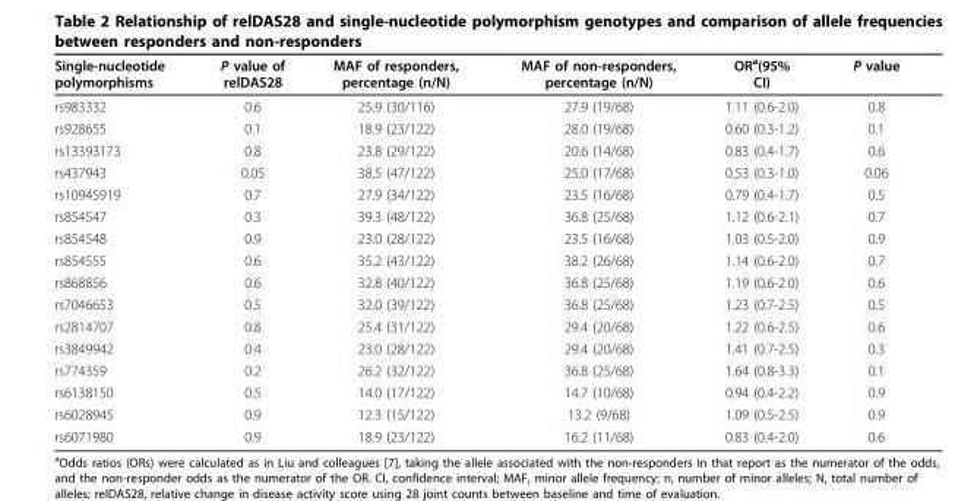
<table><thead><tr><td>Single-nucleotide polymorphisms</td><td>P value of relDAS28</td><td>MAF of responders, percentage (n/N)</td><td>MAF of non-responders, percentage (n/N)</td><td>OR<sup>a</sup>(95% CI)</td><td>P value</td></tr></thead><tbody><tr><td>rs983332</td><td>0.6</td><td>25.9 (30/116)</td><td>27.9 (19/68)</td><td>1.11 (0.6-2.0)</td><td>0.8</td></tr><tr><td>rs928655</td><td>0.1</td><td>18.9 (23/122)</td><td>28.0 (19/68)</td><td>0.60 (0.3-1.2)</td><td>0.1</td></tr><tr><td>rs13393173</td><td>0.8</td><td>23.8 (29/122)</td><td>20.6 (14/68)</td><td>0.83 (0.4-1.7)</td><td>0.6</td></tr><tr><td>rs437943</td><td>0.05</td><td>38.5 (47/122)</td><td>25.0 (17/68)</td><td>0.53 (0.3-1.0)</td><td>0.06</td></tr><tr><td>rs10945919</td><td>0.7</td><td>27.9 (34/122)</td><td>23.5 (16/68)</td><td>0.79 (0.4-1.7)</td><td>0.5</td></tr><tr><td>rs854547</td><td>0.3</td><td>39.3 (48/122)</td><td>36.8 (25/68)</td><td>1.12 (0.6-2.1)</td><td>0.7</td></tr><tr><td>rs854548</td><td>0.9</td><td>23.0 (28/122)</td><td>23.5 (16/68)</td><td>1.03 (0.5-2.0)</td><td>0.9</td></tr><tr><td>rs854555</td><td>0.6</td><td>35.2 (43/122)</td><td>38.2 (26/68)</td><td>1.14 (0.6-2.0)</td><td>0.7</td></tr><tr><td>rs868856</td><td>0.6</td><td>32.8 (40/122)</td><td>36.8 (25/68)</td><td>1.19 (0.6-2.0)</td><td>0.6</td></tr><tr><td>rs7046653</td><td>0.5</td><td>32.0 (39/122)</td><td>36.8 (25/68)</td><td>1.23 (0.7-2.5)</td><td>0.5</td></tr><tr><td>rs2814707</td><td>0.8</td><td>25.4 (31/122)</td><td>29.4 (20/68)</td><td>1.22 (0.6-2.5)</td><td>0.6</td></tr><tr><td>rs3849942</td><td>0.4</td><td>23.0 (28/122)</td><td>29.4 (20/68)</td><td>1.41 (0.7-2.5)</td><td>0.3</td></tr><tr><td>rs774359</td><td>0.2</td><td>26.2 (32/122)</td><td>36.8 (25/68)</td><td>1.64 (0.8-3.3)</td><td>0.1</td></tr><tr><td>rs6138150</td><td>0.5</td><td>14.0 (17/122)</td><td>14.7 (10/68)</td><td>0.94 (0.4-2.2)</td><td>0.9</td></tr><tr><td>rs6028945</td><td>0.9</td><td>12.3 (15/122)</td><td>13.2 (9/68)</td><td>1.09 (0.5-2.5)</td><td>0.9</td></tr><tr><td>rs6071980</td><td>0.9</td><td>18.9 (23/122)</td><td>16.2 (11/68)</td><td>0.83 (0.4-2.0)</td><td>0.6</td></tr></tbody></table>